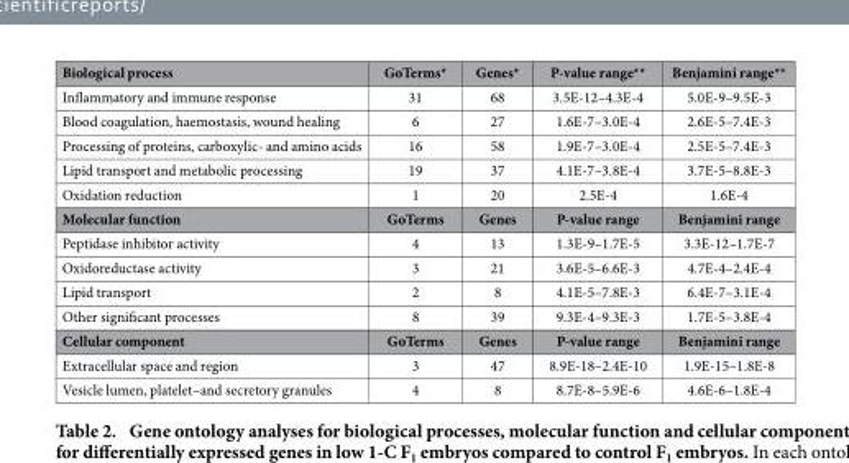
<table><thead><tr><td>Biological process</td><td>GoTerms*</td><td>Genes*</td><td>P-value range**</td><td>Benjamini range**</td></tr></thead><tbody><tr><td>Inflammatory and immune response</td><td>31</td><td>68</td><td>3.5E-12–4.3E-4</td><td>5.0E-9–9.5E-3</td></tr><tr><td>Blood coagulation, haemostasis, wound healing</td><td>6</td><td>27</td><td>1.6E-7–3.0E-4</td><td>2.6E-5–7.4E-3</td></tr><tr><td>Processing of proteins, carboxylic- and amino acids</td><td>16</td><td>58</td><td>1.9E-7–3.0E-4</td><td>2.5E-5–7.4E-3</td></tr><tr><td>Lipid transport and metabolic processing</td><td>19</td><td>37</td><td>4.1E-7–3.8E-4</td><td>3.7E-5–8.8E-3</td></tr><tr><td>Oxidation reduction</td><td>1</td><td>20</td><td>2.5E-4</td><td>1.6E-4</td></tr><tr><td>Molecular function</td><td>GoTerms</td><td>Genes</td><td>P-value range</td><td>Benjamini range</td></tr><tr><td>Peptidase inhibitor activity</td><td>4</td><td>13</td><td>1.3E-9–1.7E-5</td><td>3.3E-12–1.7E-7</td></tr><tr><td>Oxidoreductase activity</td><td>3</td><td>21</td><td>3.6E-5–6.6E-3</td><td>4.7E-4–2.4E-4</td></tr><tr><td>Lipid transport</td><td>2</td><td>8</td><td>4.1E-5–7.8E-3</td><td>6.4E-7–3.1E-4</td></tr><tr><td>Other significant processes</td><td>8</td><td>39</td><td>9.3E-4–9.3E-3</td><td>1.7E-5–3.8E-4</td></tr><tr><td>Cellular component</td><td>GoTerms</td><td>Genes</td><td>P-value range</td><td>Benjamini range</td></tr><tr><td>Extracellular space and region</td><td>3</td><td>47</td><td>8.9E-18–2.4E-10</td><td>1.9E-15–1.8E-8</td></tr><tr><td>Vesicle lumen, platelet–and secretory granules</td><td>4</td><td>8</td><td>8.7E-8–5.9E-6</td><td>4.6E-6–1.8E-4</td></tr></tbody></table>